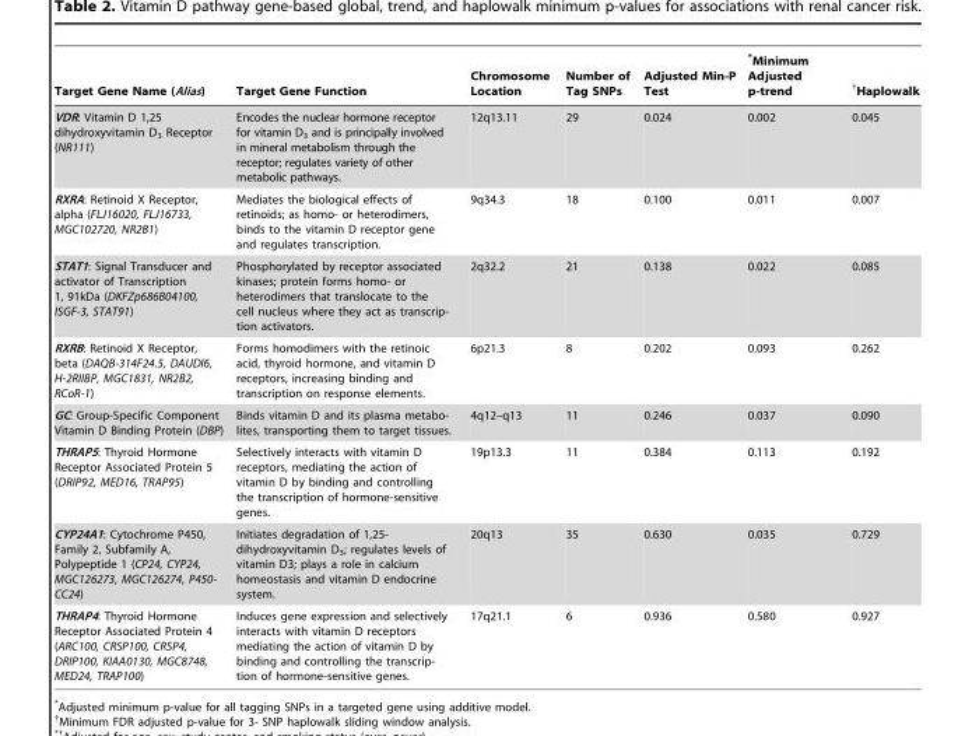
<table><thead><tr><td>Target Gene Name (Alias)</td><td>Target Gene Function</td><td>Chromosome Location</td><td>Number of Tag SNPs</td><td>Adjusted Min-P Test</td><td>*Minimum Adjusted p-trend</td><td>†Haplowalk</td></tr></thead><tbody><tr><td>VDR: Vitamin D 1,25 dihydroxyvitamin D<sub>3</sub> Receptor (NR111)</td><td>Encodes the nuclear hormone receptor for vitamin D<sub>3</sub> and is principally involved in mineral metabolism through the receptor; regulates variety of other metabolic pathways.</td><td>12q13.11</td><td>29</td><td>0.024</td><td>0.002</td><td>0.045</td></tr><tr><td>RXRA: Retinoid X Receptor, alpha (FLJ16020, FLJ16733, MGC102720, NR2B1)</td><td>Mediates the biological effects of retinoids; as homo- or heterodimers, binds to the vitamin D receptor gene and regulates transcription.</td><td>9q34.3</td><td>18</td><td>0.100</td><td>0.011</td><td>0.007</td></tr><tr><td>STAT1: Signal Transducer and activator of Transcription 1, 91kDa (DKFZp686B04100, ISGF-3, STAT91)</td><td>Phosphorylated by receptor associated kinases; protein forms homo- or heterodimers that translocate to the cell nucleus where they act as transcrip- tion activators.</td><td>2q32.2</td><td>21</td><td>0.138</td><td>0.022</td><td>0.085</td></tr><tr><td>RXRB: Retinoid X Receptor, beta (DAQB-314F24.5, DAUDI6, H-2RIIBP, MGC1831, NR2B2, RCoR-1)</td><td>Forms homodimers with the retinoic acid, thyroid hormone, and vitamin D receptors, increasing binding and transcription on response elements.</td><td>6p21.3</td><td>8</td><td>0.202</td><td>0.093</td><td>0.262</td></tr><tr><td>GC: Group-Specific Component Vitamin D Binding Protein (DBP)</td><td>Binds vitamin D and its plasma metabo- lites, transporting them to target tissues.</td><td>4q12–q13</td><td>11</td><td>0.246</td><td>0.037</td><td>0.090</td></tr><tr><td>THRAP5: Thyroid Hormone Receptor Associated Protein 5 (DRIP92, MED16, TRAP95)</td><td>Selectively interacts with vitamin D receptors, mediating the action of vitamin D by binding and controlling the transcription of hormone-sensitive genes.</td><td>19p13.3</td><td>11</td><td>0.384</td><td>0.113</td><td>0.192</td></tr><tr><td>CYP24A1: Cytochrome P450, Family 2, Subfamily A, Polypeptide 1 (CP24, CYP24, MGC126273, MGC126274, P450- CC24)</td><td>Initiates degradation of 1,25- dihydroxyvitamin D<sub>3</sub>; regulates levels of vitamin D3; plays a role in calcium homeostasis and vitamin D endocrine system.</td><td>20q13</td><td>35</td><td>0.630</td><td>0.035</td><td>0.729</td></tr><tr><td>THRAP4: Thyroid Hormone Receptor Associated Protein 4 (ARC100, CRSP100, CRSP4, DRIP100, KIAA0130, MGC8748, MED24, TRAP100)</td><td>Induces gene expression and selectively interacts with vitamin D receptors mediating the action of vitamin D by binding and controlling the transcrip- tion of hormone-sensitive genes.</td><td>17q21.1</td><td>6</td><td>0.936</td><td>0.580</td><td>0.927</td></tr></tbody></table>